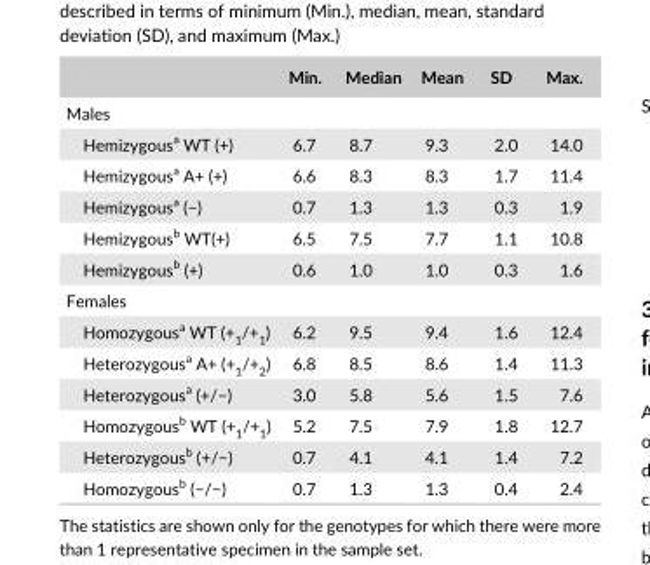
<table><thead><tr><td></td><td>Min.</td><td>Median</td><td>Mean</td><td>SD</td><td>Max.</td></tr></thead><tbody><tr><td colspan="6">Males</td></tr><tr><td>Hemizygous<sup>a</sup> WT (+)</td><td>6.7</td><td>8.7</td><td>9.3</td><td>2.0</td><td>14.0</td></tr><tr><td>Hemizygous<sup>a</sup> A+ (+)</td><td>6.6</td><td>8.3</td><td>8.3</td><td>1.7</td><td>11.4</td></tr><tr><td>Hemizygous<sup>a</sup> (−)</td><td>0.7</td><td>1.3</td><td>1.3</td><td>0.3</td><td>1.9</td></tr><tr><td>Hemizygous<sup>b</sup> WT(+)</td><td>6.5</td><td>7.5</td><td>7.7</td><td>1.1</td><td>10.8</td></tr><tr><td>Hemizygous<sup>b</sup> (+)</td><td>0.6</td><td>1.0</td><td>1.0</td><td>0.3</td><td>1.6</td></tr><tr><td colspan="6">Females</td></tr><tr><td>Homozygous<sup>a</sup> WT (+<sub>1</sub>/+<sub>1</sub>)</td><td>6.2</td><td>9.5</td><td>9.4</td><td>1.6</td><td>12.4</td></tr><tr><td>Heterozygous<sup>a</sup> A+ (+<sub>1</sub>/+<sub>2</sub>)</td><td>6.8</td><td>8.5</td><td>8.6</td><td>1.4</td><td>11.3</td></tr><tr><td>Heterozygous<sup>a</sup> (+/−)</td><td>3.0</td><td>5.8</td><td>5.6</td><td>1.5</td><td>7.6</td></tr><tr><td>Homozygous<sup>b</sup> WT (+<sub>1</sub>/+<sub>1</sub>)</td><td>5.2</td><td>7.5</td><td>7.9</td><td>1.8</td><td>12.7</td></tr><tr><td>Heterozygous<sup>b</sup> (+/−)</td><td>0.7</td><td>4.1</td><td>4.1</td><td>1.4</td><td>7.2</td></tr><tr><td>Homozygous<sup>b</sup> (−/−)</td><td>0.7</td><td>1.3</td><td>1.3</td><td>0.4</td><td>2.4</td></tr></tbody></table>